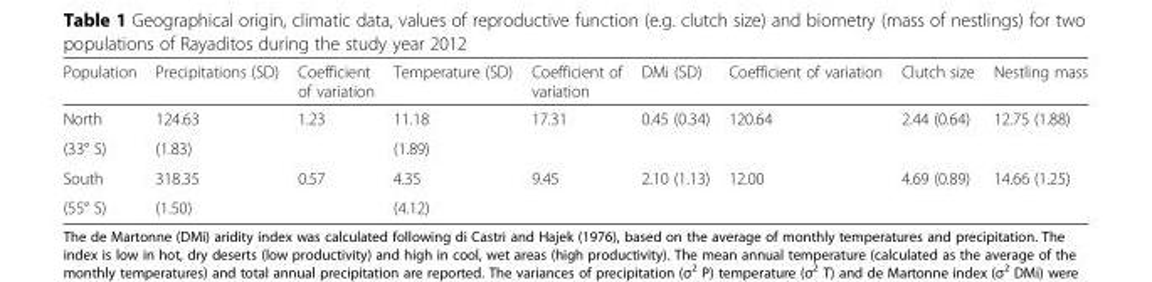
<table><thead><tr><td>Population</td><td>Precipitations (SD)</td><td>Coefficient of variation</td><td>Temperature (SD)</td><td>Coefficient of variation</td><td>DMi (SD)</td><td>Coefficient of variation</td><td>Clutch size</td><td>Nestling mass</td></tr></thead><tbody><tr><td>North</td><td>124.63</td><td>1.23</td><td>11.18</td><td rowspan="2">17.31</td><td rowspan="2">0.45 (0.34)</td><td rowspan="2">120.64</td><td rowspan="2">2.44 (0.64)</td><td rowspan="2">12.75 (1.88)</td></tr><tr><td>(33° S)</td><td>(1.83)</td><td></td><td>(1.89)</td></tr><tr><td>South</td><td>318.35</td><td>0.57</td><td>4.35</td><td rowspan="2">9.45</td><td rowspan="2">2.10 (1.13)</td><td rowspan="2">12.00</td><td rowspan="2">4.69 (0.89)</td><td rowspan="2">14.66 (1.25)</td></tr><tr><td>(55° S)</td><td>(1.50)</td><td></td><td>(4.12)</td></tr></tbody></table>